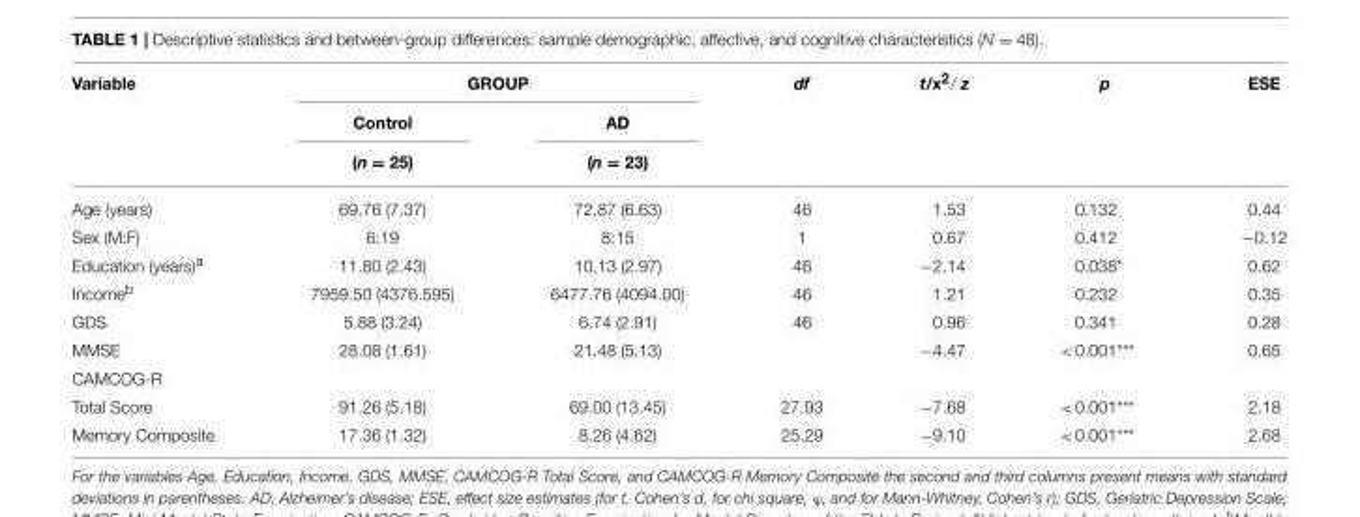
<table><thead><tr><td rowspan="3">Variable</td><td colspan="2">GROUP</td><td rowspan="3">df</td><td rowspan="3">t/x<sup>2</sup>/ z</td><td rowspan="3">p</td><td rowspan="3">ESE</td></tr><tr><td rowspan="2">Control (n = 25)</td><td rowspan="2">AD (n = 23)</td></tr><tr></tr></thead><tbody><tr><td>Age (years)</td><td>69.76 (7.37)</td><td>72.87 (6.63)</td><td>46</td><td>1.53</td><td>0.132</td><td>0.44</td></tr><tr><td>Sex (M:F)</td><td>6:19</td><td>8:15</td><td>1</td><td>0.67</td><td>0.412</td><td>−0.12</td></tr><tr><td>Education (years)<sup>a</sup></td><td>11.80 (2.43)</td><td>10.13 (2.97)</td><td>46</td><td>−2.14</td><td>0.038*</td><td>0.62</td></tr><tr><td>Income<sup>b</sup></td><td>7959.50 (4376.595)</td><td>6477.76 (4094.00)</td><td>46</td><td>1.21</td><td>0.232</td><td>0.35</td></tr><tr><td>GDS</td><td>5.88 (3.24)</td><td>6.74 (2.91)</td><td>46</td><td>0.96</td><td>0.341</td><td>0.28</td></tr><tr><td>MMSE</td><td>28.08 (1.61)</td><td>21.48 (5.13)</td><td></td><td>−4.47</td><td>&lt;0.001***</td><td>0.65</td></tr><tr><td colspan="7">CAMCOG-R</td></tr><tr><td>Total Score</td><td>91.26 (5.18)</td><td>69.00 (13.45)</td><td>27.93</td><td>−7.68</td><td>&lt;0.001***</td><td>2.18</td></tr><tr><td>Memory Composite</td><td>17.36 (1.32)</td><td>8.26 (4.62)</td><td>25.29</td><td>−9.10</td><td>&lt;0.001***</td><td>2.68</td></tr></tbody></table>